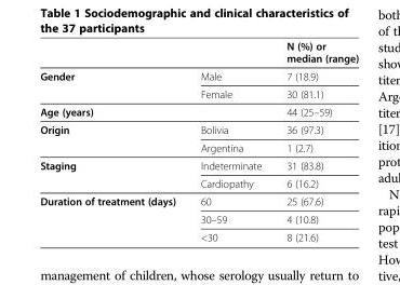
<table><thead><tr><td></td><td></td><td>N (%) or median (range)</td></tr></thead><tbody><tr><td rowspan="2">Gender</td><td>Male</td><td>7 (18.9)</td></tr><tr><td>Female</td><td>30 (81.1)</td></tr><tr><td>Age (years)</td><td></td><td>44 (25–59)</td></tr><tr><td rowspan="2">Origin</td><td>Bolivia</td><td>36 (97.3)</td></tr><tr><td>Argentina</td><td>1 (2.7)</td></tr><tr><td rowspan="2">Staging</td><td>Indeterminate</td><td>31 (83.8)</td></tr><tr><td>Cardiopathy</td><td>6 (16.2)</td></tr><tr><td rowspan="3">Duration of treatment (days)</td><td>60</td><td>25 (67.6)</td></tr><tr><td>30–59</td><td>4 (10.8)</td></tr><tr><td>&lt;30</td><td>8 (21.6)</td></tr></tbody></table>